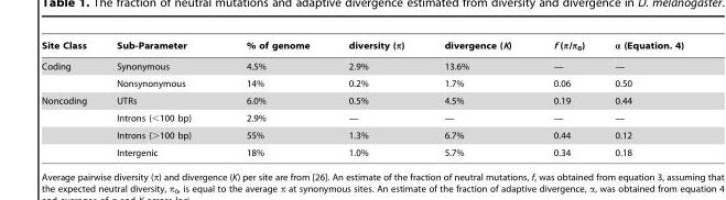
<table><thead><tr><td>Site Class</td><td>Sub-Parameter</td><td>% of genome</td><td>diversity (π)</td><td>divergence (K)</td><td>f (π/π<sub>0</sub>)</td><td>α (Equation. 4)</td></tr></thead><tbody><tr><td rowspan="2">Coding</td><td>Synonymous</td><td>4.5%</td><td>2.9%</td><td>13.6%</td><td>—</td><td>—</td></tr><tr><td>Nonsynonymous</td><td>14%</td><td>0.2%</td><td>1.7%</td><td>0.06</td><td>0.50</td></tr><tr><td rowspan="4">Noncoding</td><td>UTRs</td><td>6.0%</td><td>0.5%</td><td>4.5%</td><td>0.19</td><td>0.44</td></tr><tr><td>Introns (&lt;100 bp)</td><td>2.9%</td><td>—</td><td>—</td><td>—</td><td>—</td></tr><tr><td>Introns (&gt;100 bp)</td><td>55%</td><td>1.3%</td><td>6.7%</td><td>0.44</td><td>0.12</td></tr><tr><td>Intergenic</td><td>18%</td><td>1.0%</td><td>5.7%</td><td>0.34</td><td>0.18</td></tr></tbody></table>